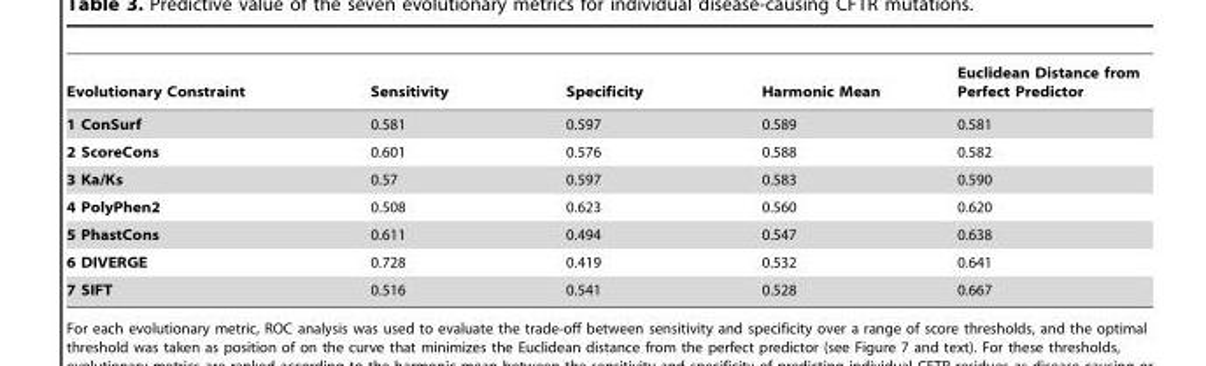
<table><thead><tr><td>Evolutionary Constraint</td><td>Sensitivity</td><td>Specificity</td><td>Harmonic Mean</td><td>Euclidean Distance from Perfect Predictor</td></tr></thead><tbody><tr><td>1 ConSurf</td><td>0.581</td><td>0.597</td><td>0.589</td><td>0.581</td></tr><tr><td>2 ScoreCons</td><td>0.601</td><td>0.576</td><td>0.588</td><td>0.582</td></tr><tr><td>3 Ka/Ks</td><td>0.57</td><td>0.597</td><td>0.583</td><td>0.590</td></tr><tr><td>4 PolyPhen2</td><td>0.508</td><td>0.623</td><td>0.560</td><td>0.620</td></tr><tr><td>5 PhastCons</td><td>0.611</td><td>0.494</td><td>0.547</td><td>0.638</td></tr><tr><td>6 DIVERGE</td><td>0.728</td><td>0.419</td><td>0.532</td><td>0.641</td></tr><tr><td>7 SIFT</td><td>0.516</td><td>0.541</td><td>0.528</td><td>0.667</td></tr></tbody></table>